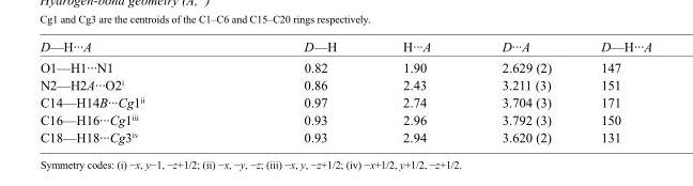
<table><tbody><tr><td>D—H···A</td><td>D—H</td><td>H···A</td><td>D···A</td><td>D—H···A</td></tr><tr><td>O1—H1···N1</td><td>0.82</td><td>1.90</td><td>2.629 (2)</td><td>147</td></tr><tr><td>N2—H2A···O2<sup>i</sup></td><td>0.86</td><td>2.43</td><td>3.211 (3)</td><td>151</td></tr><tr><td>C14—H14B···Cg1<sup>ii</sup></td><td>0.97</td><td>2.74</td><td>3.704 (3)</td><td>171</td></tr><tr><td>C16—H16···Cg1<sup>iii</sup></td><td>0.93</td><td>2.96</td><td>3.792 (3)</td><td>150</td></tr><tr><td>C18—H18···Cg3<sup>iv</sup></td><td>0.93</td><td>2.94</td><td>3.620 (2)</td><td>131</td></tr></tbody></table>